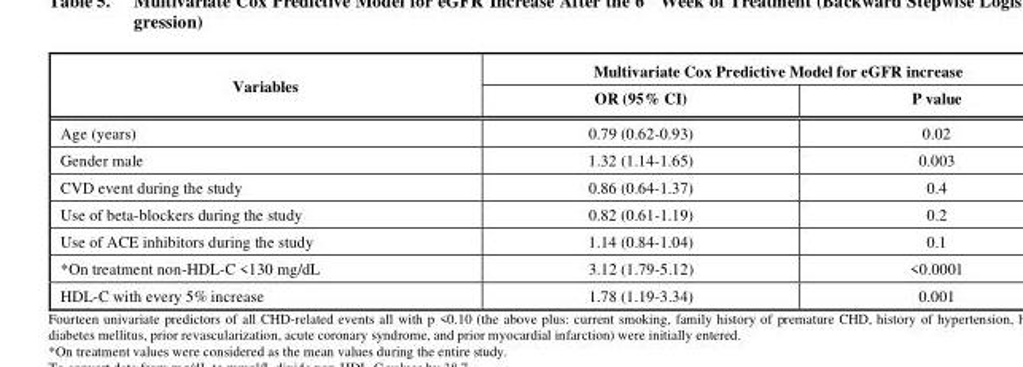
<table><thead><tr><td rowspan="2">Variables</td><td colspan="2">Multivariate Cox Predictive Model for eGFR increase</td></tr><tr><td>OR (95% CI)</td><td>P value</td></tr></thead><tbody><tr><td>Age (years)</td><td>0.79 (0.62-0.93)</td><td>0.02</td></tr><tr><td>Gender male</td><td>1.32 (1.14-1.65)</td><td>0.003</td></tr><tr><td>CVD event during the study</td><td>0.86 (0.64-1.37)</td><td>0.4</td></tr><tr><td>Use of beta-blockers during the study</td><td>0.82 (0.61-1.19)</td><td>0.2</td></tr><tr><td>Use of ACE inhibitors during the study</td><td>1.14 (0.84-1.04)</td><td>0.1</td></tr><tr><td>*On treatment non-HDL-C &lt;130 mg/dL</td><td>3.12 (1.79-5.12)</td><td>&lt;0.0001</td></tr><tr><td>HDL-C with every 5% increase</td><td>1.78 (1.19-3.34)</td><td>0.001</td></tr></tbody></table>